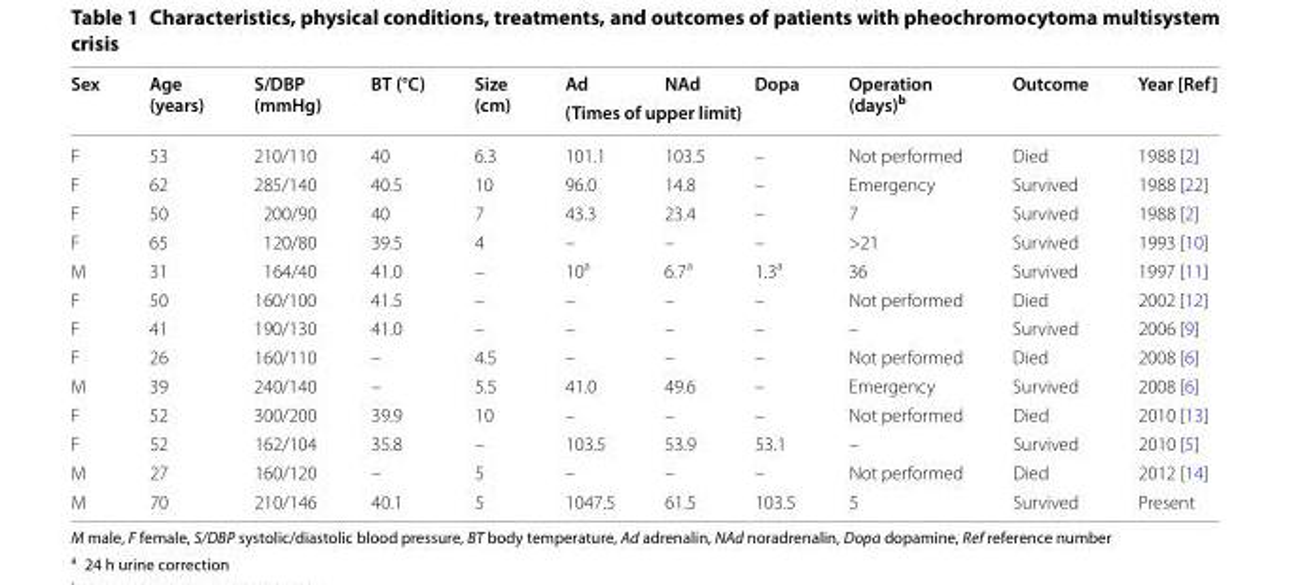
<table><thead><tr><td rowspan="2">Sex</td><td rowspan="2">Age (years)</td><td rowspan="2">S/DBP (mmHg)</td><td rowspan="2">BT (°C)</td><td rowspan="2">Size (cm)</td><td>Ad</td><td>NAd</td><td>Dopa</td><td rowspan="2">Operation (days)<sup>b</sup></td><td rowspan="2">Outcome</td><td rowspan="2">Year [Ref]</td></tr><tr><td colspan="3">(Times of upper limit)</td></tr></thead><tbody><tr><td>F</td><td>53</td><td>210/110</td><td>40</td><td>6.3</td><td>101.1</td><td>103.5</td><td>–</td><td>Not performed</td><td>Died</td><td>1988 [2]</td></tr><tr><td>F</td><td>62</td><td>285/140</td><td>40.5</td><td>10</td><td>96.0</td><td>14.8</td><td>–</td><td>Emergency</td><td>Survived</td><td>1988 [22]</td></tr><tr><td>F</td><td>50</td><td>200/90</td><td>40</td><td>7</td><td>43.3</td><td>23.4</td><td>–</td><td>7</td><td>Survived</td><td>1988 [2]</td></tr><tr><td>F</td><td>65</td><td>120/80</td><td>39.5</td><td>4</td><td>–</td><td>–</td><td>–</td><td>&gt;21</td><td>Survived</td><td>1993 [10]</td></tr><tr><td>M</td><td>31</td><td>164/40</td><td>41.0</td><td>–</td><td>10<sup>a</sup></td><td>6.7<sup>a</sup></td><td>1.3<sup>a</sup></td><td>36</td><td>Survived</td><td>1997 [11]</td></tr><tr><td>F</td><td>50</td><td>160/100</td><td>41.5</td><td>–</td><td>–</td><td>–</td><td>–</td><td>Not performed</td><td>Died</td><td>2002 [12]</td></tr><tr><td>F</td><td>41</td><td>190/130</td><td>41.0</td><td>–</td><td>–</td><td>–</td><td>–</td><td>–</td><td>Survived</td><td>2006 [9]</td></tr><tr><td>F</td><td>26</td><td>160/110</td><td>–</td><td>4.5</td><td>–</td><td>–</td><td>–</td><td>Not performed</td><td>Died</td><td>2008 [6]</td></tr><tr><td>M</td><td>39</td><td>240/140</td><td>–</td><td>5.5</td><td>41.0</td><td>49.6</td><td>–</td><td>Emergency</td><td>Survived</td><td>2008 [6]</td></tr><tr><td>F</td><td>52</td><td>300/200</td><td>39.9</td><td>10</td><td>–</td><td>–</td><td>–</td><td>Not performed</td><td>Died</td><td>2010 [13]</td></tr><tr><td>F</td><td>52</td><td>162/104</td><td>35.8</td><td>–</td><td>103.5</td><td>53.9</td><td>53.1</td><td>–</td><td>Survived</td><td>2010 [5]</td></tr><tr><td>M</td><td>27</td><td>160/120</td><td>–</td><td>5</td><td>–</td><td>–</td><td>–</td><td>Not performed</td><td>Died</td><td>2012 [14]</td></tr><tr><td>M</td><td>70</td><td>210/146</td><td>40.1</td><td>5</td><td>1047.5</td><td>61.5</td><td>103.5</td><td>5</td><td>Survived</td><td>Present</td></tr></tbody></table>